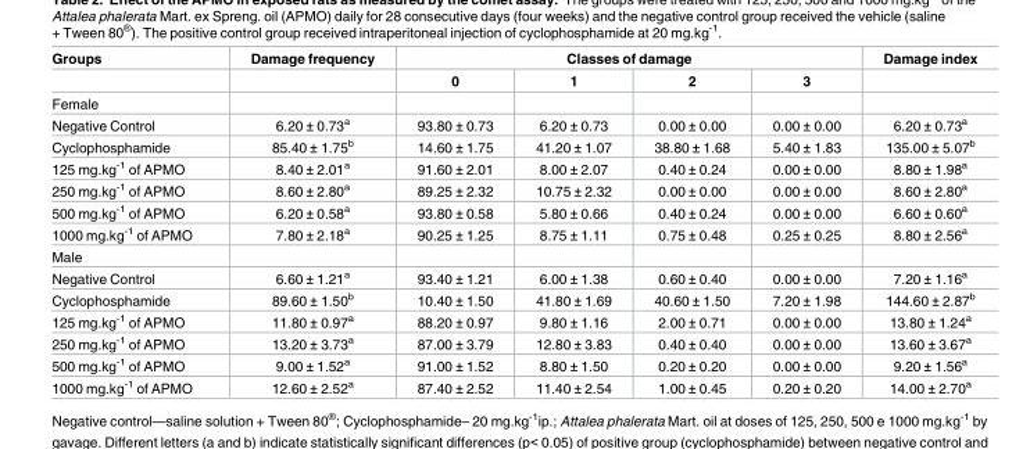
<table><thead><tr><td rowspan="2">Groups</td><td rowspan="2">Damage frequency</td><td colspan="4">Classes of damage</td><td rowspan="2">Damage index</td></tr><tr><td>0</td><td>1</td><td>2</td><td>3</td></tr></thead><tbody><tr><td colspan="7">Female</td></tr><tr><td>Negative Control</td><td>6.20 ± 0.73<sup>a</sup></td><td>93.80 ± 0.73</td><td>6.20 ± 0.73</td><td>0.00 ± 0.00</td><td>0.00 ± 0.00</td><td>6.20 ± 0.73<sup>a</sup></td></tr><tr><td>Cyclophosphamide</td><td>85.40 ± 1.75<sup>b</sup></td><td>14.60 ± 1.75</td><td>41.20 ± 1.07</td><td>38.80 ± 1.68</td><td>5.40 ± 1.83</td><td>135.00 ± 5.07<sup>b</sup></td></tr><tr><td>125 mg.kg<sup>-1</sup> of APMO</td><td>8.40 ± 2.01<sup>a</sup></td><td>91.60 ± 2.01</td><td>8.00 ± 2.07</td><td>0.40 ± 0.24</td><td>0.00 ± 0.00</td><td>8.80 ± 1.98<sup>a</sup></td></tr><tr><td>250 mg.kg<sup>-1</sup> of APMO</td><td>8.60 ± 2.80<sup>a</sup></td><td>89.25 ± 2.32</td><td>10.75 ± 2.32</td><td>0.00 ± 0.00</td><td>0.00 ± 0.00</td><td>8.60 ± 2.80<sup>a</sup></td></tr><tr><td>500 mg.kg<sup>-1</sup> of APMO</td><td>6.20 ± 0.58<sup>a</sup></td><td>93.80 ± 0.58</td><td>5.80 ± 0.66</td><td>0.40 ± 0.24</td><td>0.00 ± 0.00</td><td>6.60 ± 0.60<sup>a</sup></td></tr><tr><td>1000 mg.kg<sup>-1</sup> of APMO</td><td>7.80 ± 2.18<sup>a</sup></td><td>90.25 ± 1.25</td><td>8.75 ± 1.11</td><td>0.75 ± 0.48</td><td>0.25 ± 0.25</td><td>8.80 ± 2.56<sup>a</sup></td></tr><tr><td colspan="7">Male</td></tr><tr><td>Negative Control</td><td>6.60 ± 1.21<sup>a</sup></td><td>93.40 ± 1.21</td><td>6.00 ± 1.38</td><td>0.60 ± 0.40</td><td>0.00 ± 0.00</td><td>7.20 ± 1.16<sup>a</sup></td></tr><tr><td>Cyclophosphamide</td><td>89.60 ± 1.50<sup>b</sup></td><td>10.40 ± 1.50</td><td>41.80 ± 1.69</td><td>40.60 ± 1.50</td><td>7.20 ± 1.98</td><td>144.60 ± 2.87<sup>b</sup></td></tr><tr><td>125 mg.kg<sup>-1</sup> of APMO</td><td>11.80 ± 0.97<sup>a</sup></td><td>88.20 ± 0.97</td><td>9.80 ± 1.16</td><td>2.00 ± 0.71</td><td>0.00 ± 0.00</td><td>13.80 ± 1.24<sup>a</sup></td></tr><tr><td>250 mg.kg<sup>-1</sup> of APMO</td><td>13.20 ± 3.73<sup>a</sup></td><td>87.00 ± 3.79</td><td>12.80 ± 3.83</td><td>0.40 ± 0.40</td><td>0.00 ± 0.00</td><td>13.60 ± 3.67<sup>a</sup></td></tr><tr><td>500 mg.kg<sup>-1</sup> of APMO</td><td>9.00 ± 1.52<sup>a</sup></td><td>91.00 ± 1.52</td><td>8.80 ± 1.50</td><td>0.20 ± 0.20</td><td>0.00 ± 0.00</td><td>9.20 ± 1.56<sup>a</sup></td></tr><tr><td>1000 mg.kg<sup>-1</sup> of APMO</td><td>12.60 ± 2.52<sup>a</sup></td><td>87.40 ± 2.52</td><td>11.40 ± 2.54</td><td>1.00 ± 0.45</td><td>0.20 ± 0.20</td><td>14.00 ± 2.70<sup>a</sup></td></tr></tbody></table>